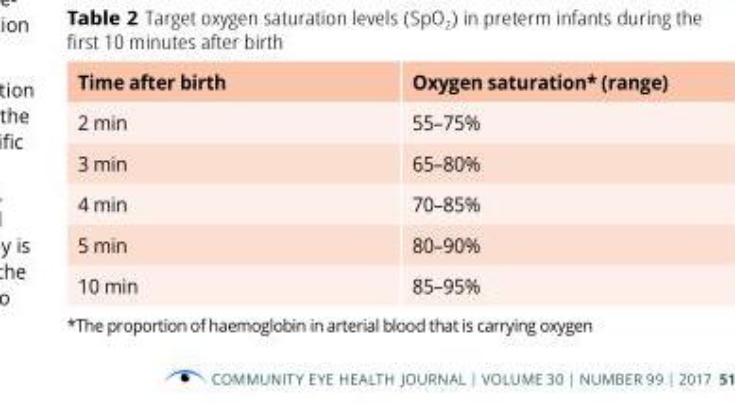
<table><thead><tr><td>Time after birth</td><td>Oxygen saturation* (range)</td></tr></thead><tbody><tr><td>2 min</td><td>55–75%</td></tr><tr><td>3 min</td><td>65–80%</td></tr><tr><td>4 min</td><td>70–85%</td></tr><tr><td>5 min</td><td>80–90%</td></tr><tr><td>10 min</td><td>85–95%</td></tr><tr><td colspan="2">*The proportion of haemoglobin in arterial blood that is carrying oxygen</td></tr></tbody></table>